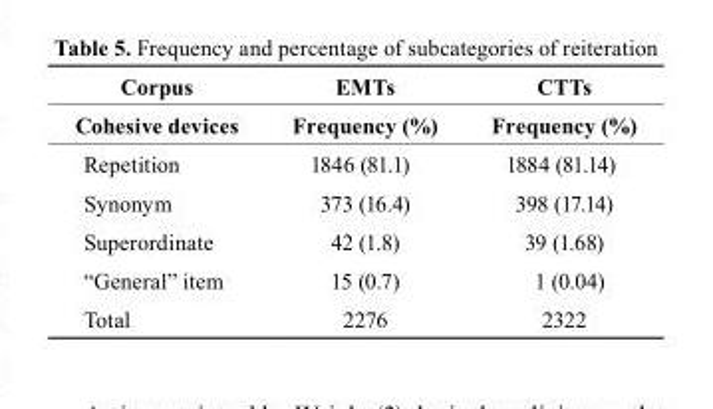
<table><thead><tr><td rowspan="2">corpus cohesive devices</td><td rowspan="2">EMts Frequency (%)</td><td rowspan="2">ctts Frequency (%)</td></tr><tr></tr></thead><tbody><tr><td>Repetition</td><td>1846 (81.1)</td><td>1884 (81.14)</td></tr><tr><td>Synonym</td><td>373 (16.4)</td><td>398 (17.14)</td></tr><tr><td>Superordinate</td><td>42 (1.8)</td><td>39 (1.68)</td></tr><tr><td>“General” item</td><td>15 (0.7)</td><td>1 (0.04)</td></tr><tr><td>Total</td><td>2276</td><td>2322</td></tr></tbody></table>